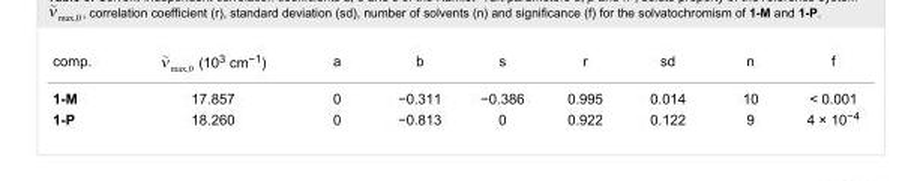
<table><tbody><tr><td>comp.</td><td>(10<sup>3</sup> cm<sup>−1</sup>)</td><td>a</td><td>b</td><td>s</td><td>r</td><td>sd</td><td>n</td><td>f</td></tr><tr><td>1-M</td><td>17.857</td><td>0</td><td>−0.311</td><td>−0.386</td><td>0.995</td><td>0.014</td><td>10</td><td>&lt; 0.001</td></tr><tr><td>1-P</td><td>18.260</td><td>0</td><td>−0.813</td><td>0</td><td>0.922</td><td>0.122</td><td>9</td><td>4 × 10<sup>−4</sup></td></tr></tbody></table>